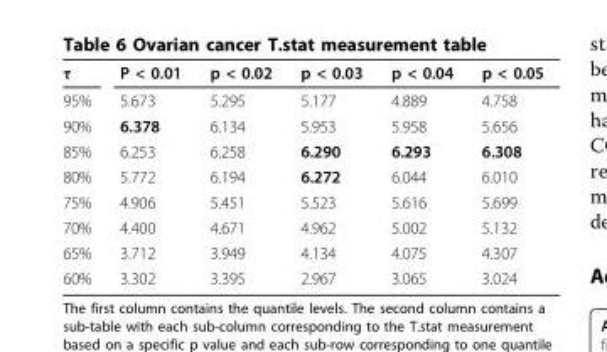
<table><tbody><tr><td>τ</td><td>P &lt; 0.01</td><td>p &lt; 0.02</td><td>p &lt; 0.03</td><td>p &lt; 0.04</td><td>p &lt; 0.05</td></tr><tr><td>95%</td><td>5.673</td><td>5.295</td><td>5.177</td><td>4.889</td><td>4.758</td></tr><tr><td>90%</td><td>6.378</td><td>6.134</td><td>5.953</td><td>5.958</td><td>5.656</td></tr><tr><td>85%</td><td>6.253</td><td>6.258</td><td>6.290</td><td>6.293</td><td>6.308</td></tr><tr><td>80%</td><td>5.772</td><td>6.194</td><td>6.272</td><td>6.044</td><td>6.010</td></tr><tr><td>75%</td><td>4.906</td><td>5.451</td><td>5.523</td><td>5.616</td><td>5.699</td></tr><tr><td>70%</td><td>4.400</td><td>4.671</td><td>4.962</td><td>5.002</td><td>5.132</td></tr><tr><td>65%</td><td>3.712</td><td>3.949</td><td>4.134</td><td>4.075</td><td>4.307</td></tr><tr><td>60%</td><td>3.302</td><td>3.395</td><td>2.967</td><td>3.065</td><td>3.024</td></tr></tbody></table>